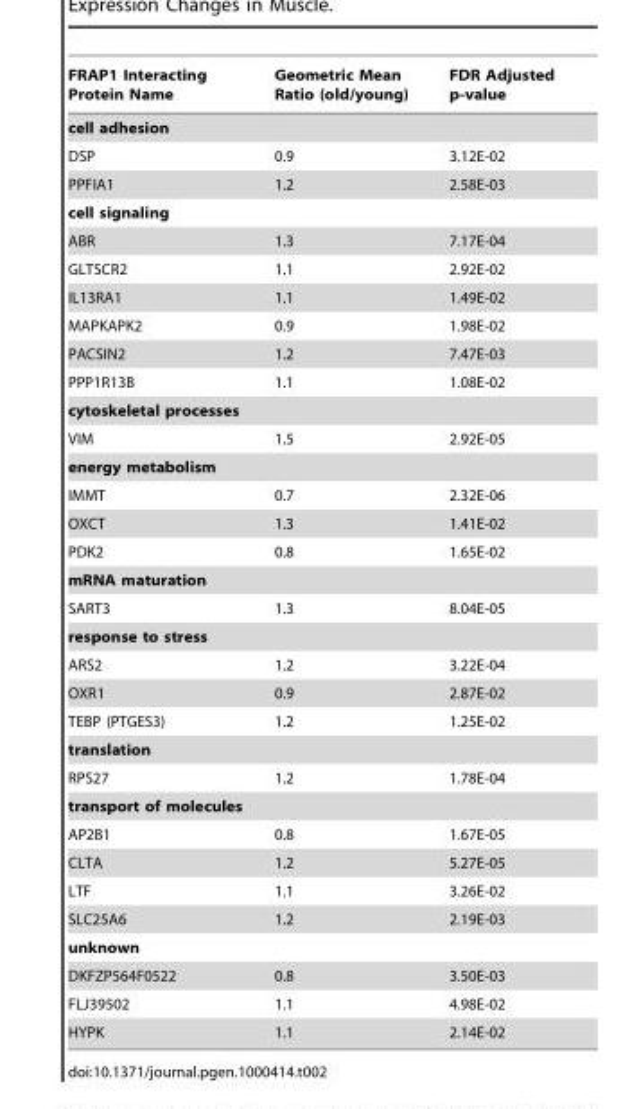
<table><thead><tr><td>FRAP1 Interacting Protein Name</td><td>Geometric Mean Ratio (old/young)</td><td>FDR Adjusted p-value</td></tr></thead><tbody><tr><td colspan="3">cell adhesion</td></tr><tr><td>DSP</td><td>0.9</td><td>3.12E-02</td></tr><tr><td>PPFIA1</td><td>1.2</td><td>2.58E-03</td></tr><tr><td colspan="3">cell signaling</td></tr><tr><td>ABR</td><td>1.3</td><td>7.17E-04</td></tr><tr><td>GLTSCR2</td><td>1.1</td><td>2.92E-02</td></tr><tr><td>IL13RA1</td><td>1.1</td><td>1.49E-02</td></tr><tr><td>MAPKAPK2</td><td>0.9</td><td>1.98E-02</td></tr><tr><td>PACSIN2</td><td>1.2</td><td>7.47E-03</td></tr><tr><td>PPP1R13B</td><td>1.1</td><td>1.08E-02</td></tr><tr><td colspan="3">cytoskeletal processes</td></tr><tr><td>VIM</td><td>1.5</td><td>2.92E-05</td></tr><tr><td colspan="3">energy metabolism</td></tr><tr><td>IMMT</td><td>0.7</td><td>2.32E-06</td></tr><tr><td>OXCT</td><td>1.3</td><td>1.41E-02</td></tr><tr><td>PDK2</td><td>0.8</td><td>1.65E-02</td></tr><tr><td colspan="3">mRNA maturation</td></tr><tr><td>SART3</td><td>1.3</td><td>8.04E-05</td></tr><tr><td colspan="3">response to stress</td></tr><tr><td>ARS2</td><td>1.2</td><td>3.22E-04</td></tr><tr><td>OXR1</td><td>0.9</td><td>2.87E-02</td></tr><tr><td>TEBP (PTGES3)</td><td>1.2</td><td>1.25E-02</td></tr><tr><td colspan="3">translation</td></tr><tr><td>RPS27</td><td>1.2</td><td>1.78E-04</td></tr><tr><td colspan="3">transport of molecules</td></tr><tr><td>AP2B1</td><td>0.8</td><td>1.67E-05</td></tr><tr><td>CLTA</td><td>1.2</td><td>5.27E-05</td></tr><tr><td>LTF</td><td>1.1</td><td>3.26E-02</td></tr><tr><td>SLC25A6</td><td>1.2</td><td>2.19E-03</td></tr><tr><td colspan="3">unknown</td></tr><tr><td>DKFZP564F0522</td><td>0.8</td><td>3.50E-03</td></tr><tr><td>FLJ39502</td><td>1.1</td><td>4.98E-02</td></tr><tr><td>HYPK</td><td>1.1</td><td>2.14E-02</td></tr></tbody></table>